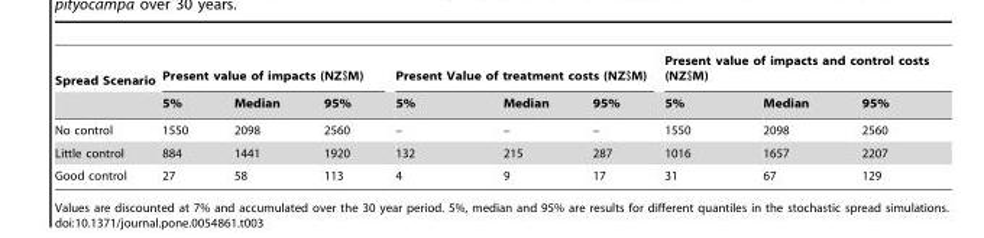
<table><thead><tr><td rowspan="2">Spread Scenario</td><td colspan="3">Present value of impacts (NZ$M)</td><td colspan="3">Present Value of treatment costs (NZ$M)</td><td colspan="3">Present value of impacts and control costs (NZ$M)</td></tr><tr><td>5%</td><td>Median</td><td>95%</td><td>5%</td><td>Median</td><td>95%</td><td>5%</td><td>Median</td><td>95%</td></tr></thead><tbody><tr><td>No control</td><td>1550</td><td>2098</td><td>2560</td><td>–</td><td>–</td><td>–</td><td>1550</td><td>2098</td><td>2560</td></tr><tr><td>Little control</td><td>884</td><td>1441</td><td>1920</td><td>132</td><td>215</td><td>287</td><td>1016</td><td>1657</td><td>2207</td></tr><tr><td>Good control</td><td>27</td><td>58</td><td>113</td><td>4</td><td>9</td><td>17</td><td>31</td><td>67</td><td>129</td></tr></tbody></table>